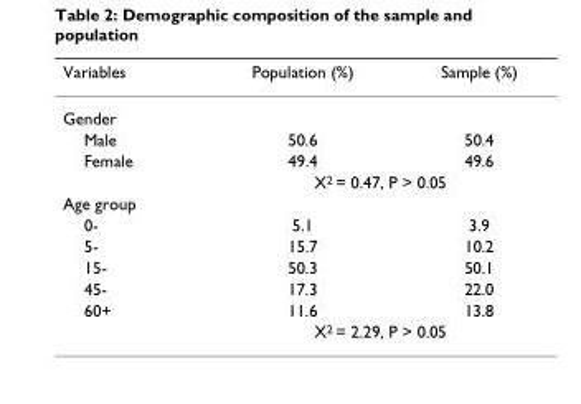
<table><thead><tr><td>Variables</td><td>Population (%)</td><td>Sample (%)</td></tr></thead><tbody><tr><td colspan="3">Gender</td></tr><tr><td>Male</td><td>50.6</td><td>50.4</td></tr><tr><td rowspan="2">Female</td><td>49.4</td><td>49.6</td></tr><tr><td colspan="2">X<sup>2</sup> = 0.47, P &gt; 0.05</td></tr><tr><td colspan="3">Age group</td></tr><tr><td>0-</td><td>5.1</td><td>3.9</td></tr><tr><td>5-</td><td>15.7</td><td>10.2</td></tr><tr><td>15-</td><td>50.3</td><td>50.1</td></tr><tr><td>45-</td><td>17.3</td><td>22.0</td></tr><tr><td rowspan="2">60+</td><td>11.6</td><td>13.8</td></tr><tr><td colspan="2">X<sup>2</sup> = 2.29, P &gt; 0.05</td></tr></tbody></table>